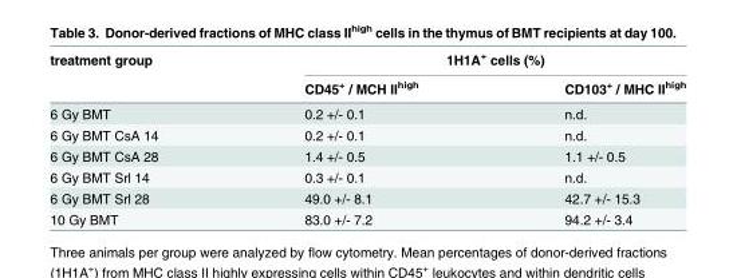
<table><thead><tr><td rowspan="2">treatment group</td><td colspan="2">1H1A<sup>+</sup> cells (%)</td></tr><tr><td>CD45<sup>+</sup> / MCH II<sup>high</sup></td><td>CD103<sup>+</sup> / MHC II<sup>high</sup></td></tr></thead><tbody><tr><td>6 Gy BMT</td><td>0.2 +/- 0.1</td><td>n.d.</td></tr><tr><td>6 Gy BMT CsA 14</td><td>0.2 +/- 0.1</td><td>n.d.</td></tr><tr><td>6 Gy BMT CsA 28</td><td>1.4 +/- 0.5</td><td>1.1 +/- 0.5</td></tr><tr><td>6 Gy BMT Srl 14</td><td>0.3 +/- 0.1</td><td>n.d.</td></tr><tr><td>6 Gy BMT Srl 28</td><td>49.0 +/- 8.1</td><td>42.7 +/- 15.3</td></tr><tr><td>10 Gy BMT</td><td>83.0 +/- 7.2</td><td>94.2 +/- 3.4</td></tr></tbody></table>